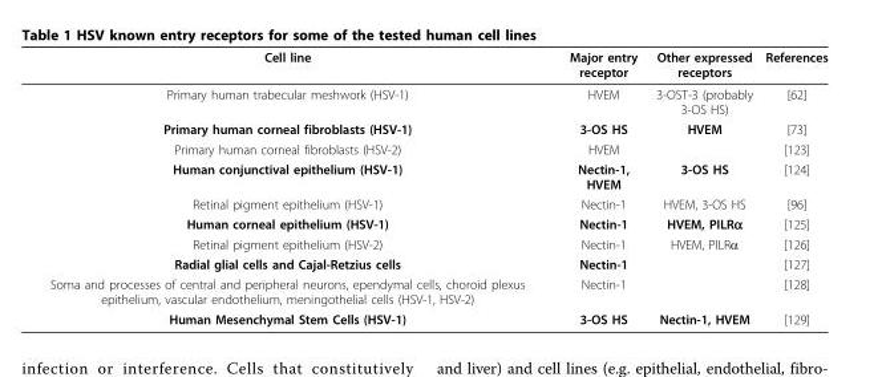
<table><thead><tr><td>Cell line</td><td>Major entry receptor</td><td>Other expressed receptors</td><td>References</td></tr></thead><tbody><tr><td>Primary human trabecular meshwork (HSV-1)</td><td>HVEM</td><td>3-OST-3 (probably 3-OS HS)</td><td>[62]</td></tr><tr><td>Primary human corneal fibroblasts (HSV-1)</td><td>3-OS HS</td><td>HVEM</td><td>[73]</td></tr><tr><td>Primary human corneal fibroblasts (HSV-2)</td><td>HVEM</td><td></td><td>[123]</td></tr><tr><td>Human conjunctival epithelium (HSV-1)</td><td>Nectin-1, HVEM</td><td>3-OS HS</td><td>[124]</td></tr><tr><td>Retinal pigment epithelium (HSV-1)</td><td>Nectin-1</td><td>HVEM, 3-OS HS</td><td>[96]</td></tr><tr><td>Human corneal epithelium (HSV-1)</td><td>Nectin-1</td><td>HVEM, PILRα</td><td>[125]</td></tr><tr><td>Retinal pigment epithelium (HSV-2)</td><td>Nectin-1</td><td>HVEM, PILRα</td><td>[126]</td></tr><tr><td>Radial glial cells and Cajal-Retzius cells</td><td>Nectin-1</td><td></td><td>[127]</td></tr><tr><td>Soma and processes of central and peripheral neurons, ependymal cells, choroid plexus epithelium, vascular endothelium, meningothelial cells (HSV-1, HSV-2)</td><td>Nectin-1</td><td></td><td>[128]</td></tr><tr><td>Human Mesenchymal Stem Cells (HSV-1)</td><td>3-OS HS</td><td>Nectin-1, HVEM</td><td>[129]</td></tr></tbody></table>